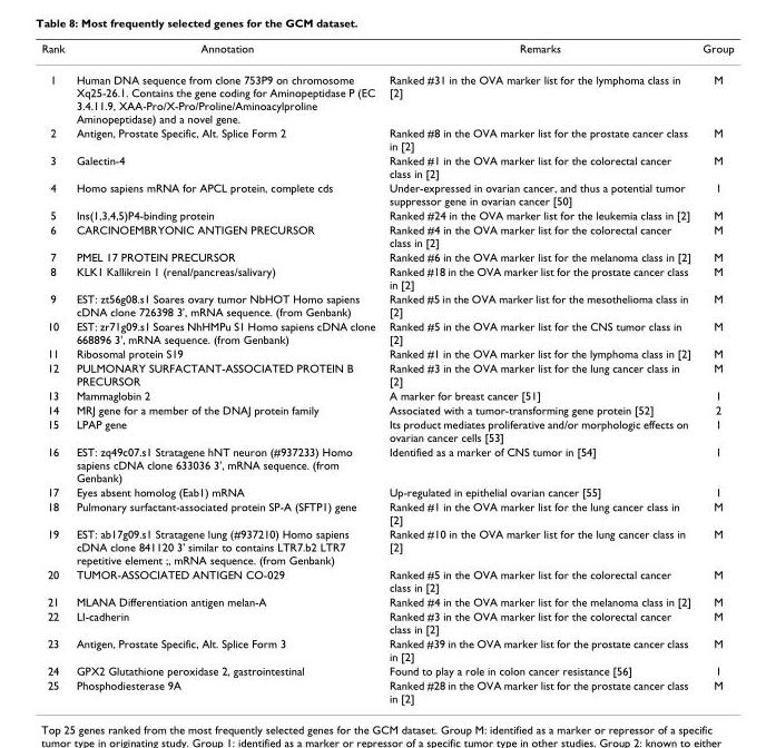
<table><thead><tr><td>Rank</td><td>Annotation</td><td>Remarks</td><td>Group</td></tr></thead><tbody><tr><td>1</td><td>Human DNA sequence from clone 753P9 on chromosome Xq25-26.1. Contains the gene coding for Aminopeptidase P (EC 3.4.11.9, XAA-Pro/X-Pro/Proline/Aminoacylproline Aminopeptidase) and a novel gene.</td><td>Ranked #31 in the OVA marker list for the lymphoma class in [2]</td><td>M</td></tr><tr><td>2</td><td>Antigen, Prostate Specific, Alt. Splice Form 2</td><td>Ranked #8 in the OVA marker list for the prostate cancer class in [2]</td><td>M</td></tr><tr><td>3</td><td>Galectin-4</td><td>Ranked #1 in the OVA marker list for the colorectal cancer class in [2]</td><td>M</td></tr><tr><td>4</td><td>Homo sapiens mRNA for APCL protein, complete cds</td><td>Under-expressed in ovarian cancer, and thus a potential tumor suppressor gene in ovarian cancer [50]</td><td>1</td></tr><tr><td>5</td><td>Ins(1,3,4,5)P4-binding protein</td><td>Ranked #24 in the OVA marker list for the leukemia class in [2]</td><td>M</td></tr><tr><td>6</td><td>CARCINOEMBRYONIC ANTIGEN PRECURSOR</td><td>Ranked #4 in the OVA marker list for the colorectal cancer class in [2]</td><td>M</td></tr><tr><td>7</td><td>PMEL 17 PROTEIN PRECURSOR</td><td>Ranked #6 in the OVA marker list for the melanoma class in [2]</td><td>M</td></tr><tr><td>8</td><td>KLK1 Kallikrein 1 (renal/pancreas/salivary)</td><td>Ranked #18 in the OVA marker list for the prostate cancer class in [2]</td><td>M</td></tr><tr><td>9</td><td>EST: zt56g08.s1 Soares ovary tumor NbHOT Homo sapiens cDNA clone 726398 3&#x27;, mRNA sequence. (from Genbank)</td><td>Ranked #5 in the OVA marker list for the mesothelioma class in [2]</td><td>M</td></tr><tr><td>10</td><td>EST: zr71g09.s1 Soares NhHMPu S1 Homo sapiens cDNA clone 668896 3&#x27;, mRNA sequence. (from Genbank)</td><td>Ranked #5 in the OVA marker list for the CNS tumor class in [2]</td><td>M</td></tr><tr><td>11</td><td>Ribosomal protein S19</td><td>Ranked #1 in the OVA marker list for the lymphoma class in [2]</td><td>M</td></tr><tr><td>12</td><td>PULMONARY SURFACTANT-ASSOCIATED PROTEIN B PRECURSOR</td><td>Ranked #3 in the OVA marker list for the lung cancer class in [2]</td><td>M</td></tr><tr><td>13</td><td>Mammaglobin 2</td><td>A marker for breast cancer [51]</td><td>1</td></tr><tr><td>14</td><td>MRJ gene for a member of the DNAJ protein family</td><td>Associated with a tumor-transforming gene protein [52]</td><td>2</td></tr><tr><td>15</td><td>LPAP gene</td><td>Its product mediates proliferative and/or morphologic effects on ovarian cancer cells [53]</td><td>1</td></tr><tr><td>16</td><td>EST: zq49c07.s1 Stratagene hNT neuron (#937233) Homo sapiens cDNA clone 633036 3&#x27;, mRNA sequence. (from Genbank)</td><td>Identified as a marker of CNS tumor in [54]</td><td>1</td></tr><tr><td>17</td><td>Eyes absent homolog (Eab1) mRNA</td><td>Up-regulated in epithelial ovarian cancer [55]</td><td>1</td></tr><tr><td>18</td><td>Pulmonary surfactant-associated protein SP-A (SFTP1) gene</td><td>Ranked #1 in the OVA marker list for the lung cancer class in [2]</td><td>M</td></tr><tr><td>19</td><td>EST: ab17g09.s1 Stratagene lung (#937210) Homo sapiens cDNA clone 841120 3&#x27; similar to contains LTR7.b2 LTR7 repetitive element ;, mRNA sequence. (from Genbank)</td><td>Ranked #10 in the OVA marker list for the lung cancer class in [2]</td><td>M</td></tr><tr><td>20</td><td>TUMOR-ASSOCIATED ANTIGEN CO-029</td><td>Ranked #5 in the OVA marker list for the colorectal cancer class in [2]</td><td>M</td></tr><tr><td>21</td><td>MLANA Differentiation antigen melan-A</td><td>Ranked #4 in the OVA marker list for the melanoma class in [2]</td><td>M</td></tr><tr><td>22</td><td>LI-cadherin</td><td>Ranked #3 in the OVA marker list for the colorectal cancer class in [2]</td><td>M</td></tr><tr><td>23</td><td>Antigen, Prostate Specific, Alt. Splice Form 3</td><td>Ranked #39 in the OVA marker list for the prostate cancer class in [2]</td><td>M</td></tr><tr><td>24</td><td>GPX2 Glutathione peroxidase 2, gastrointestinal</td><td>Found to play a role in colon cancer resistance [56]</td><td>1</td></tr><tr><td>25</td><td>Phosphodiesterase 9A</td><td>Ranked #28 in the OVA marker list for the prostate cancer class in [2]</td><td>M</td></tr></tbody></table>